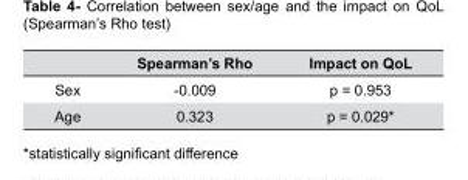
<table><thead><tr><td></td><td>Spearman’s Rho</td><td>Impact on QoL</td></tr></thead><tbody><tr><td>Sex</td><td>-0.009</td><td>p = 0.953</td></tr><tr><td>Age</td><td>0.323</td><td>p = 0.029*</td></tr></tbody></table>